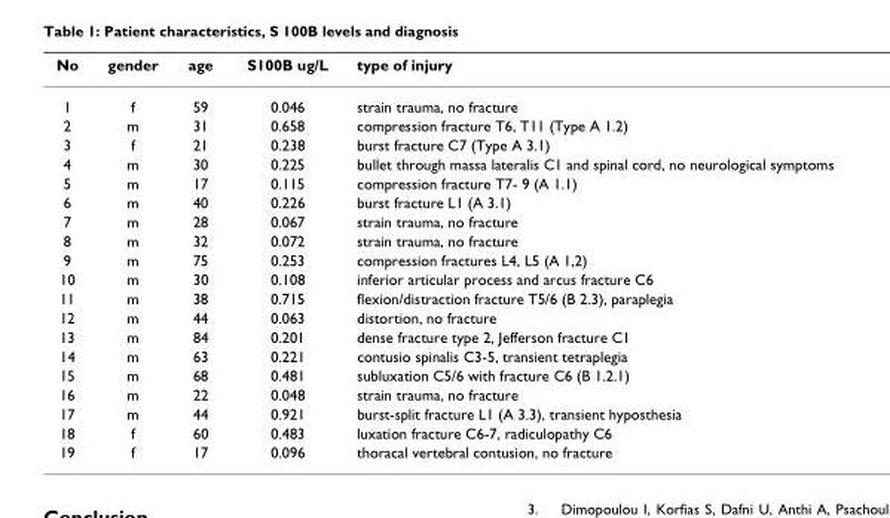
<table><thead><tr><td>No</td><td>gender</td><td>age</td><td>S100B ug/L</td><td>type of injury</td></tr></thead><tbody><tr><td>1</td><td>f</td><td>59</td><td>0.046</td><td>strain trauma, no fracture</td></tr><tr><td>2</td><td>m</td><td>31</td><td>0.658</td><td>compression fracture T6, T11 (Type A 1.2)</td></tr><tr><td>3</td><td>f</td><td>21</td><td>0.238</td><td>burst fracture C7 (Type A 3.1)</td></tr><tr><td>4</td><td>m</td><td>30</td><td>0.225</td><td>bullet through massa lateralis C1 and spinal cord, no neurological symptoms</td></tr><tr><td>5</td><td>m</td><td>17</td><td>0.115</td><td>compression fracture T7- 9 (A 1.1)</td></tr><tr><td>6</td><td>m</td><td>40</td><td>0.226</td><td>burst fracture L1 (A 3.1)</td></tr><tr><td>7</td><td>m</td><td>28</td><td>0.067</td><td>strain trauma, no fracture</td></tr><tr><td>8</td><td>m</td><td>32</td><td>0.072</td><td>strain trauma, no fracture</td></tr><tr><td>9</td><td>m</td><td>75</td><td>0.253</td><td>compression fractures L4, L5 (A 1,2)</td></tr><tr><td>10</td><td>m</td><td>30</td><td>0.108</td><td>inferior articular process and arcus fracture C6</td></tr><tr><td>11</td><td>m</td><td>38</td><td>0.715</td><td>flexion/distraction fracture T5/6 (B 2.3), paraplegia</td></tr><tr><td>12</td><td>m</td><td>44</td><td>0.063</td><td>distortion, no fracture</td></tr><tr><td>13</td><td>m</td><td>84</td><td>0.201</td><td>dense fracture type 2, Jefferson fracture C1</td></tr><tr><td>14</td><td>m</td><td>63</td><td>0.221</td><td>contusio spinalis C3-5, transient tetraplegia</td></tr><tr><td>15</td><td>m</td><td>68</td><td>0.481</td><td>subluxation C5/6 with fracture C6 (B 1.2.1)</td></tr><tr><td>16</td><td>m</td><td>22</td><td>0.048</td><td>strain trauma, no fracture</td></tr><tr><td>17</td><td>m</td><td>44</td><td>0.921</td><td>burst-split fracture L1 (A 3.3), transient hyposthesia</td></tr><tr><td>18</td><td>f</td><td>60</td><td>0.483</td><td>luxation fracture C6-7, radiculopathy C6</td></tr><tr><td>19</td><td>f</td><td>17</td><td>0.096</td><td>thoracal vertebral contusion, no fracture</td></tr></tbody></table>